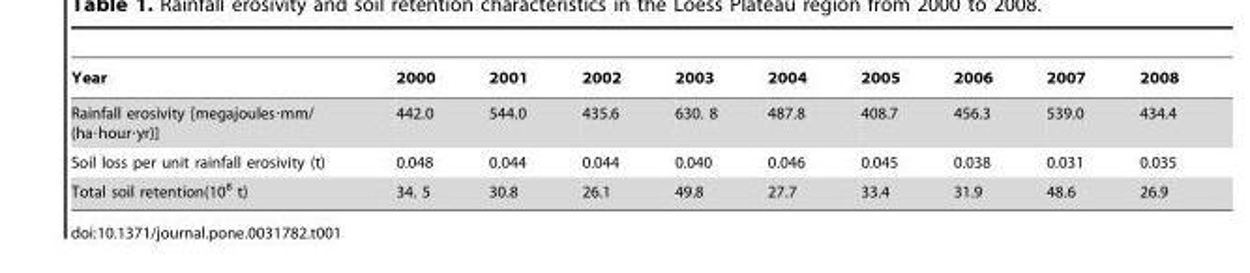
<table><thead><tr><td>Year</td><td>2000</td><td>2001</td><td>2002</td><td>2003</td><td>2004</td><td>2005</td><td>2006</td><td>2007</td><td>2008</td></tr></thead><tbody><tr><td>Rainfall erosivity [megajoules·mm/ (ha·hour·yr)]</td><td>442.0</td><td>544.0</td><td>435.6</td><td>630. 8</td><td>487.8</td><td>408.7</td><td>456.3</td><td>539.0</td><td>434.4</td></tr><tr><td>Soil loss per unit rainfall erosivity (t)</td><td>0.048</td><td>0.044</td><td>0.044</td><td>0.040</td><td>0.046</td><td>0.045</td><td>0.038</td><td>0.031</td><td>0.035</td></tr><tr><td>Total soil retention(10<sup>8</sup> t)</td><td>34. 5</td><td>30.8</td><td>26.1</td><td>49.8</td><td>27.7</td><td>33.4</td><td>31.9</td><td>48.6</td><td>26.9</td></tr></tbody></table>